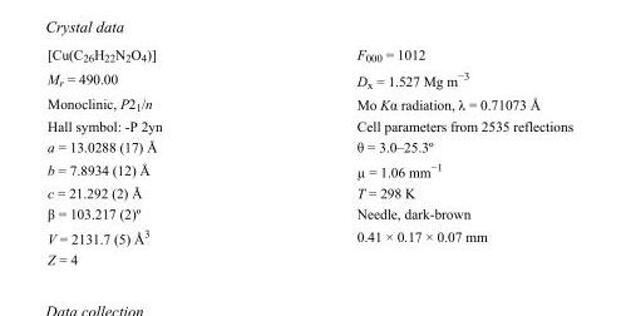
<table><tbody><tr><td>[Cu(C<sub>26</sub>H<sub>22</sub>N<sub>2</sub>O<sub>4</sub>)]</td><td>F000 = 1012</td></tr><tr><td>M<sub>r</sub> = 490.00</td><td>D<sub>x</sub> = 1.527 Mg m<sup>−3</sup></td></tr><tr><td>Monoclinic, P2<sub>1</sub>/n</td><td>Mo Kα radiation, λ = 0.71073 Å</td></tr><tr><td>Hall symbol: -P 2yn</td><td>Cell parameters from 2535 reflections</td></tr><tr><td>a = 13.0288 (17) Å</td><td>θ = 3.0–25.3º</td></tr><tr><td>b = 7.8934 (12) Å</td><td>µ = 1.06 mm<sup>−1</sup></td></tr><tr><td>c = 21.292 (2) Å</td><td>T = 298 K</td></tr><tr><td>β = 103.217 (2)º</td><td>Needle, dark-brown</td></tr><tr><td>V = 2131.7 (5) Å<sup>3</sup></td><td>0.41 × 0.17 × 0.07 mm</td></tr><tr><td>Z = 4</td><td></td></tr></tbody></table>